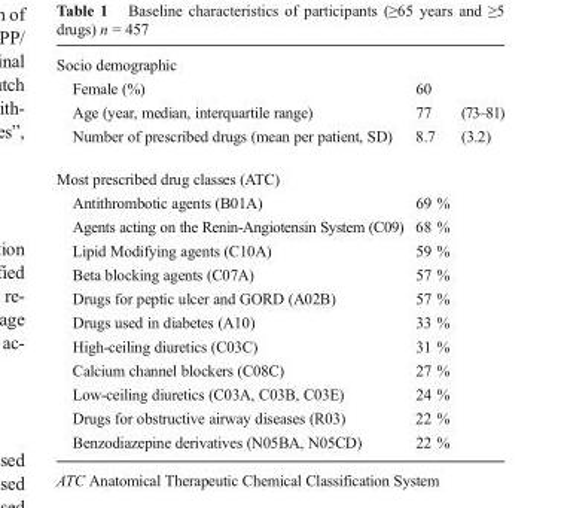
<table><tbody><tr><td colspan="3">Socio demographic</td></tr><tr><td>Female (%)</td><td>60</td><td></td></tr><tr><td>Age (year, median, interquartile range)</td><td>77</td><td>(73–81)</td></tr><tr><td>Number of prescribed drugs (mean per patient, SD)</td><td>8.7</td><td>(3.2)</td></tr><tr><td colspan="3">Most prescribed drug classes (ATC)</td></tr><tr><td>Antithrombotic agents (B01A)</td><td>69 %</td><td></td></tr><tr><td>Agents acting on the Renin-Angiotensin System (C09)</td><td>68 %</td><td></td></tr><tr><td>Lipid Modifying agents (C10A)</td><td>59 %</td><td></td></tr><tr><td>Beta blocking agents (C07A)</td><td>57 %</td><td></td></tr><tr><td>Drugs for peptic ulcer and GORD (A02B)</td><td>57 %</td><td></td></tr><tr><td>Drugs used in diabetes (A10)</td><td>33 %</td><td></td></tr><tr><td>High-ceiling diuretics (C03C)</td><td>31 %</td><td></td></tr><tr><td>Calcium channel blockers (C08C)</td><td>27 %</td><td></td></tr><tr><td>Low-ceiling diuretics (C03A, C03B, C03E)</td><td>24 %</td><td></td></tr><tr><td>Drugs for obstructive airway diseases (R03)</td><td>22 %</td><td></td></tr><tr><td>Benzodiazepine derivatives (N05BA, N05CD)</td><td>22 %</td><td></td></tr></tbody></table>